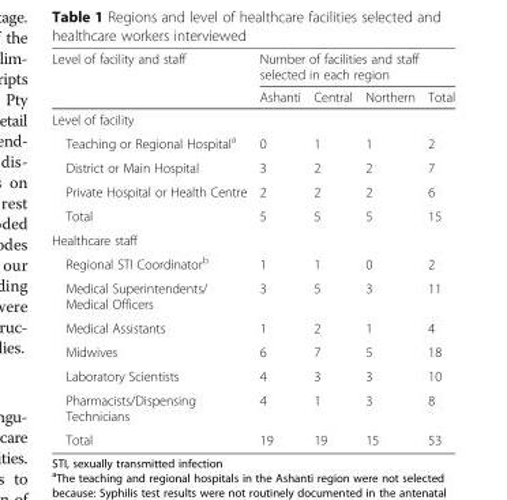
<table><thead><tr><td rowspan="2">Level of facility and staff</td><td colspan="4">Number of facilities and staff selected in each region</td></tr><tr><td>Ashanti</td><td>Central</td><td>Northern</td><td>Total</td></tr></thead><tbody><tr><td colspan="5">Level of facility</td></tr><tr><td>Teaching or Regional Hospital<sup>a</sup></td><td>0</td><td>1</td><td>1</td><td>2</td></tr><tr><td>District or Main Hospital</td><td>3</td><td>2</td><td>2</td><td>7</td></tr><tr><td>Private Hospital or Health Centre</td><td>2</td><td>2</td><td>2</td><td>6</td></tr><tr><td>Total</td><td>5</td><td>5</td><td>5</td><td>15</td></tr><tr><td colspan="5">Healthcare staff</td></tr><tr><td>Regional STI Coordinator<sup>b</sup></td><td>1</td><td>1</td><td>0</td><td>2</td></tr><tr><td>Medical Superintendents/ Medical Officers</td><td>3</td><td>5</td><td>3</td><td>11</td></tr><tr><td>Medical Assistants</td><td>1</td><td>2</td><td>1</td><td>4</td></tr><tr><td>Midwives</td><td>6</td><td>7</td><td>5</td><td>18</td></tr><tr><td>Laboratory Scientists</td><td>4</td><td>3</td><td>3</td><td>10</td></tr><tr><td>Pharmacists/Dispensing Technicians</td><td>4</td><td>1</td><td>3</td><td>8</td></tr><tr><td>Total</td><td>19</td><td>19</td><td>15</td><td>53</td></tr></tbody></table>